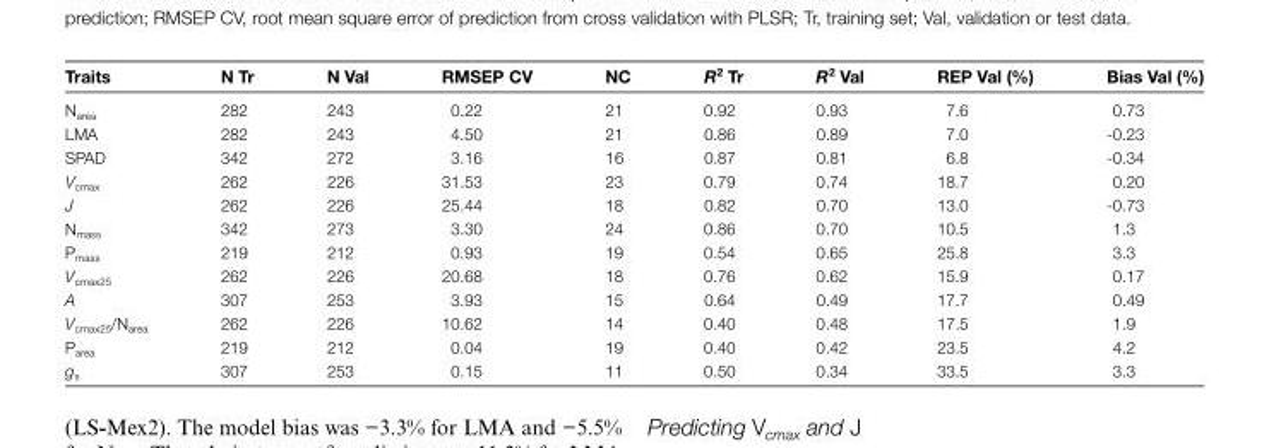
<table><thead><tr><td>Traits</td><td>N Tr</td><td>N Val</td><td>RMSEP CV</td><td>NC</td><td>R<sup>2</sup> Tr</td><td>R<sup>2</sup> Val</td><td>REP Val (%)</td><td>Bias Val (%)</td></tr></thead><tbody><tr><td>N<sub>area</sub></td><td>282</td><td>243</td><td>0.22</td><td>21</td><td>0.92</td><td>0.93</td><td>7.6</td><td>0.73</td></tr><tr><td>LMA</td><td>282</td><td>243</td><td>4.50</td><td>21</td><td>0.86</td><td>0.89</td><td>7.0</td><td>-0.23</td></tr><tr><td>SPAD</td><td>342</td><td>272</td><td>3.16</td><td>16</td><td>0.87</td><td>0.81</td><td>6.8</td><td>-0.34</td></tr><tr><td>V<sub>cmax</sub></td><td>262</td><td>226</td><td>31.53</td><td>23</td><td>0.79</td><td>0.74</td><td>18.7</td><td>0.20</td></tr><tr><td>J</td><td>262</td><td>226</td><td>25.44</td><td>18</td><td>0.82</td><td>0.70</td><td>13.0</td><td>-0.73</td></tr><tr><td>N<sub>mass</sub></td><td>342</td><td>273</td><td>3.30</td><td>24</td><td>0.86</td><td>0.70</td><td>10.5</td><td>1.3</td></tr><tr><td>P<sub>mass</sub></td><td>219</td><td>212</td><td>0.93</td><td>19</td><td>0.54</td><td>0.65</td><td>25.8</td><td>3.3</td></tr><tr><td>V<sub>cmax25</sub></td><td>262</td><td>226</td><td>20.68</td><td>18</td><td>0.76</td><td>0.62</td><td>15.9</td><td>0.17</td></tr><tr><td>A</td><td>307</td><td>253</td><td>3.93</td><td>15</td><td>0.64</td><td>0.49</td><td>17.7</td><td>0.49</td></tr><tr><td>V<sub>cmax25</sub>/N<sub>area</sub></td><td>262</td><td>226</td><td>10.62</td><td>14</td><td>0.40</td><td>0.48</td><td>17.5</td><td>1.9</td></tr><tr><td>P<sub>area</sub></td><td>219</td><td>212</td><td>0.04</td><td>19</td><td>0.40</td><td>0.42</td><td>23.5</td><td>4.2</td></tr><tr><td>g<sub>s</sub></td><td>307</td><td>253</td><td>0.15</td><td>11</td><td>0.50</td><td>0.34</td><td>33.5</td><td>3.3</td></tr></tbody></table>